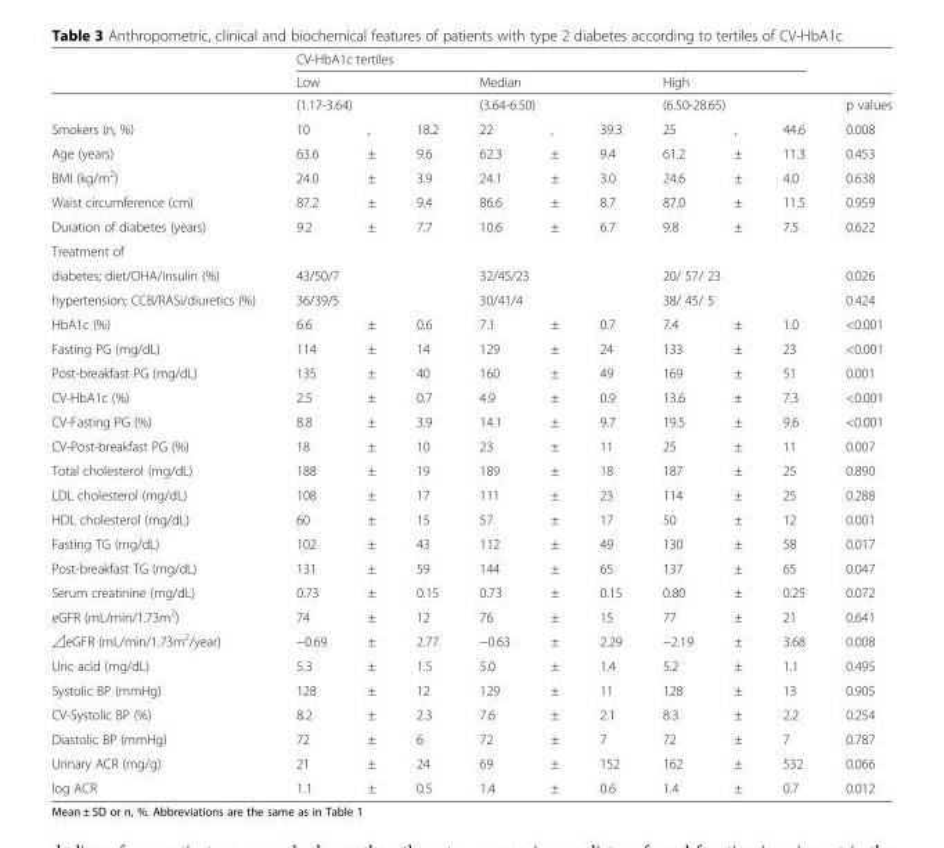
<table><thead><tr><td rowspan="4">Smokers (n, %)</td><td colspan="9">CV-HbA1c tertiles</td><td rowspan="4">p values 0.008</td></tr><tr><td rowspan="2" colspan="3">Low (1.17-3.64)</td><td rowspan="2" colspan="3">Median (3.64-6.50)</td><td rowspan="2" colspan="3">High (6.50-28.65)</td></tr><tr></tr><tr><td>10</td><td>,</td><td>18.2</td><td>22</td><td>,</td><td>39.3</td><td>25</td><td>,</td><td>44.6</td></tr></thead><tbody><tr><td>Age (years)</td><td>63.6</td><td>±</td><td>9.6</td><td>62.3</td><td>±</td><td>9.4</td><td>61.2</td><td>±</td><td>11.3</td><td>0.453</td></tr><tr><td>BMI (kg/m<sup>2</sup>)</td><td>24.0</td><td>±</td><td>3.9</td><td>24.1</td><td>±</td><td>3.0</td><td>24.6</td><td>±</td><td>4.0</td><td>0.638</td></tr><tr><td>Waist circumference (cm)</td><td>87.2</td><td>±</td><td>9.4</td><td>86.6</td><td>±</td><td>8.7</td><td>87.0</td><td>±</td><td>11.5</td><td>0.959</td></tr><tr><td>Duration of diabetes (years)</td><td>9.2</td><td>±</td><td>7.7</td><td>10.6</td><td>±</td><td>6.7</td><td>9.8</td><td>±</td><td>7.5</td><td>0.622</td></tr><tr><td colspan="11">Treatment of</td></tr><tr><td>diabetes; diet/OHA/insulin (%)</td><td colspan="3">43/50/7</td><td colspan="3">32/45/23</td><td colspan="3">20/ 57/ 23</td><td>0.026</td></tr><tr><td>hypertension; CCB/RASi/diuretics (%)</td><td colspan="3">36/39/5</td><td colspan="3">30/41/4</td><td colspan="3">38/ 45/ 5</td><td>0.424</td></tr><tr><td>HbA1c (%)</td><td>6.6</td><td>±</td><td>0.6</td><td>7.1</td><td>±</td><td>0.7</td><td>7.4</td><td>±</td><td>1.0</td><td>&lt;0.001</td></tr><tr><td>Fasting PG (mg/dL)</td><td>114</td><td>±</td><td>14</td><td>129</td><td>±</td><td>24</td><td>133</td><td>±</td><td>23</td><td>&lt;0.001</td></tr><tr><td>Post-breakfast PG (mg/dL)</td><td>135</td><td>±</td><td>40</td><td>160</td><td>±</td><td>49</td><td>169</td><td>±</td><td>51</td><td>0.001</td></tr><tr><td>CV-HbA1c (%)</td><td>2.5</td><td>±</td><td>0.7</td><td>4.9</td><td>±</td><td>0.9</td><td>13.6</td><td>±</td><td>7.3</td><td>&lt;0.001</td></tr><tr><td>CV-Fasting PG (%)</td><td>8.8</td><td>±</td><td>3.9</td><td>14.1</td><td>±</td><td>9.7</td><td>19.5</td><td>±</td><td>9.6</td><td>&lt;0.001</td></tr><tr><td>CV-Post-breakfast PG (%)</td><td>18</td><td>±</td><td>10</td><td>23</td><td>±</td><td>11</td><td>25</td><td>±</td><td>11</td><td>0.007</td></tr><tr><td>Total cholesterol (mg/dL)</td><td>188</td><td>±</td><td>19</td><td>189</td><td>±</td><td>18</td><td>187</td><td>±</td><td>25</td><td>0.890</td></tr><tr><td>LDL cholesterol (mg/dL)</td><td>108</td><td>±</td><td>17</td><td>111</td><td>±</td><td>23</td><td>114</td><td>±</td><td>25</td><td>0.288</td></tr><tr><td>HDL cholesterol (mg/dL)</td><td>60</td><td>±</td><td>15</td><td>57</td><td>±</td><td>17</td><td>50</td><td>±</td><td>12</td><td>0.001</td></tr><tr><td>Fasting TG (mg/dL)</td><td>102</td><td>±</td><td>43</td><td>112</td><td>±</td><td>49</td><td>130</td><td>±</td><td>58</td><td>0.017</td></tr><tr><td>Post-breakfast TG (mg/dL)</td><td>131</td><td>±</td><td>59</td><td>144</td><td>±</td><td>65</td><td>137</td><td>±</td><td>65</td><td>0.047</td></tr><tr><td>Serum creatinine (mg/dL)</td><td>0.73</td><td>±</td><td>0.15</td><td>0.73</td><td>±</td><td>0.15</td><td>0.80</td><td>±</td><td>0.25</td><td>0.072</td></tr><tr><td>eGFR (mL/min/1.73m<sup>2</sup>)</td><td>74</td><td>±</td><td>12</td><td>76</td><td>±</td><td>15</td><td>77</td><td>±</td><td>21</td><td>0.641</td></tr><tr><td>⊿eGFR (mL/min/1.73m<sup>2</sup>/year)</td><td>−0.69</td><td>±</td><td>2.77</td><td>−0.63</td><td>±</td><td>2.29</td><td>−2.19</td><td>±</td><td>3.68</td><td>0.008</td></tr><tr><td>Uric acid (mg/dL)</td><td>5.3</td><td>±</td><td>1.5</td><td>5.0</td><td>±</td><td>1.4</td><td>5.2</td><td>±</td><td>1.1</td><td>0.495</td></tr><tr><td>Systolic BP (mmHg)</td><td>128</td><td>±</td><td>12</td><td>129</td><td>±</td><td>11</td><td>128</td><td>±</td><td>13</td><td>0.905</td></tr><tr><td>CV-Systolic BP (%)</td><td>8.2</td><td>±</td><td>2.3</td><td>7.6</td><td>±</td><td>2.1</td><td>8.3</td><td>±</td><td>2.2</td><td>0.254</td></tr><tr><td>Diastolic BP (mmHg)</td><td>72</td><td>±</td><td>6</td><td>72</td><td>±</td><td>7</td><td>72</td><td>±</td><td>7</td><td>0.787</td></tr><tr><td>Urinary ACR (mg/g)</td><td>21</td><td>±</td><td>24</td><td>69</td><td>±</td><td>152</td><td>162</td><td>±</td><td>532</td><td>0.066</td></tr><tr><td>log ACR</td><td>1.1</td><td>±</td><td>0.5</td><td>1.4</td><td>±</td><td>0.6</td><td>1.4</td><td>±</td><td>0.7</td><td>0.012</td></tr></tbody></table>